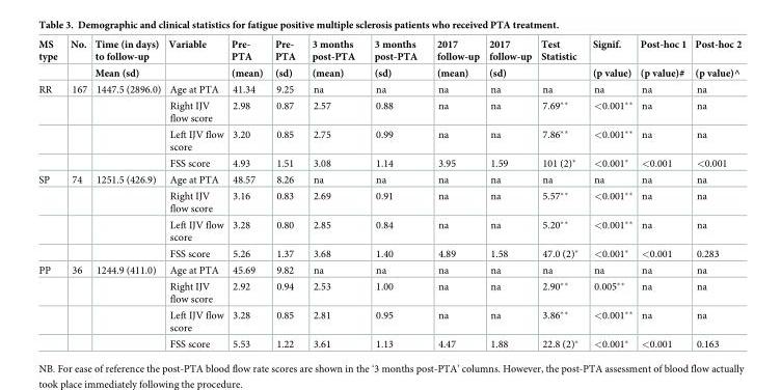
<table><thead><tr><td rowspan="2">MS type</td><td rowspan="2">No.</td><td rowspan="2">Time (in days) to follow-up Mean (sd)</td><td rowspan="2">Variable</td><td rowspan="2">Pre- PTA (mean)</td><td rowspan="2">Pre- PTA (sd)</td><td rowspan="2">3 months post-PTA (mean)</td><td rowspan="2">3 months post-PTA (sd)</td><td rowspan="2">2017 follow-up (mean)</td><td rowspan="2">2017 follow-up (sd)</td><td rowspan="2">Test Statistic</td><td rowspan="2">Signif. (p value)</td><td rowspan="2">Post-hoc 1 (p value)#</td><td rowspan="2">Post-hoc 2 (p value)^</td></tr><tr></tr></thead><tbody><tr><td rowspan="4">RR</td><td>167</td><td>1447.5 (2896.0)</td><td>Age at PTA</td><td>41.34</td><td>9.25</td><td>na</td><td>na</td><td>na</td><td>na</td><td>na</td><td>na</td><td>na</td><td>na</td></tr><tr><td></td><td></td><td>Right IJV flow score</td><td>2.98</td><td>0.87</td><td>2.57</td><td>0.88</td><td>na</td><td>na</td><td>7.69**</td><td>&lt;0.001**</td><td>na</td><td>na</td></tr><tr><td></td><td></td><td>Left IJV flow score</td><td>3.20</td><td>0.85</td><td>2.75</td><td>0.99</td><td>na</td><td>na</td><td>7.86**</td><td>&lt;0.001**</td><td>na</td><td>na</td></tr><tr><td></td><td></td><td>FSS score</td><td>4.93</td><td>1.51</td><td>3.08</td><td>1.14</td><td>3.95</td><td>1.59</td><td>101 (2)*</td><td>&lt;0.001*</td><td>&lt;0.001</td><td>&lt;0.001</td></tr><tr><td rowspan="4">SP</td><td>74</td><td>1251.5 (426.9)</td><td>Age at PTA</td><td>48.57</td><td>8.26</td><td>na</td><td>na</td><td>na</td><td>na</td><td>na</td><td>na</td><td>na</td><td>na</td></tr><tr><td></td><td></td><td>Right IJV flow score</td><td>3.16</td><td>0.83</td><td>2.69</td><td>0.91</td><td>na</td><td>na</td><td>5.57**</td><td>&lt;0.001**</td><td>na</td><td>na</td></tr><tr><td></td><td></td><td>Left IJV flow score</td><td>3.28</td><td>0.80</td><td>2.85</td><td>0.84</td><td>na</td><td>na</td><td>5.20**</td><td>&lt;0.001**</td><td>na</td><td>na</td></tr><tr><td></td><td></td><td>FSS score</td><td>5.26</td><td>1.37</td><td>3.68</td><td>1.40</td><td>4.89</td><td>1.58</td><td>47.0 (2)*</td><td>&lt;0.001*</td><td>&lt;0.001</td><td>0.283</td></tr><tr><td rowspan="4">PP</td><td>36</td><td>1244.9 (411.0)</td><td>Age at PTA</td><td>45.69</td><td>9.82</td><td>na</td><td>na</td><td>na</td><td>na</td><td>na</td><td>na</td><td>na</td><td>na</td></tr><tr><td></td><td></td><td>Right IJV flow score</td><td>2.92</td><td>0.94</td><td>2.53</td><td>1.00</td><td>na</td><td>na</td><td>2.90**</td><td>0.005**</td><td>na</td><td>na</td></tr><tr><td></td><td></td><td>Left IJV flow score</td><td>3.28</td><td>0.85</td><td>2.81</td><td>0.95</td><td>na</td><td>na</td><td>3.86**</td><td>&lt;0.001**</td><td>na</td><td>na</td></tr><tr><td></td><td></td><td>FSS score</td><td>5.53</td><td>1.22</td><td>3.61</td><td>1.13</td><td>4.47</td><td>1.88</td><td>22.8 (2)*</td><td>&lt;0.001*</td><td>&lt;0.001</td><td>0.163</td></tr></tbody></table>